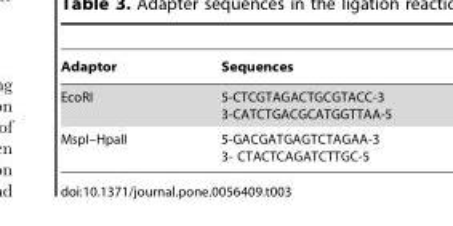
<table><thead><tr><td>Adaptor</td><td>Sequences</td></tr></thead><tbody><tr><td>EcoRI</td><td>5-CTCGTAGACTGCGTACC-3 3-CATCTGACGCATGGTTAA-5</td></tr><tr><td>MspI–HpaII</td><td>5-GACGATGAGTCTAGAA-3 3- CTACTCAGATCTTGC-5</td></tr></tbody></table>